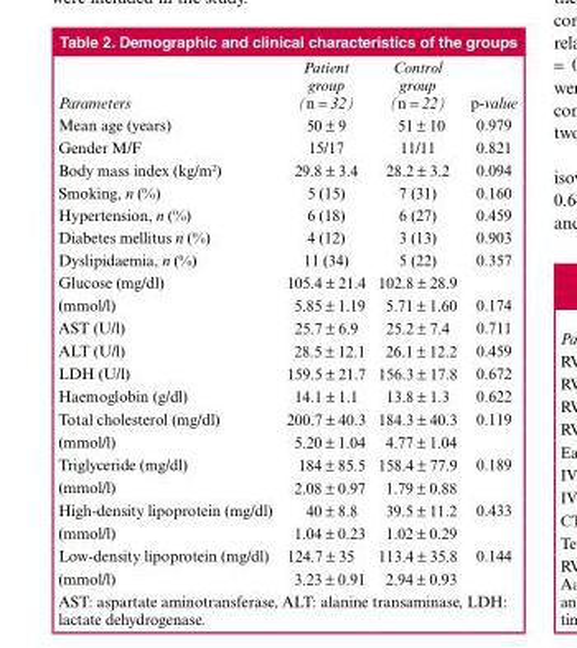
<table><thead><tr><td>Parameters</td><td>Patient group (n = 32)</td><td>Control group (n = 22)</td><td>p-value</td></tr></thead><tbody><tr><td>Mean age (years)</td><td>50 ± 9</td><td>51 ± 10</td><td>0.979</td></tr><tr><td>Gender M/F</td><td>15/17</td><td>11/11</td><td>0.821</td></tr><tr><td>Body mass index (kg/m²)</td><td>29.8 ± 3.4</td><td>28.2 ± 3.2</td><td>0.094</td></tr><tr><td>Smoking, n (%)</td><td>5 (15)</td><td>7 (31)</td><td>0.160</td></tr><tr><td>Hypertension, n (%)</td><td>6 (18)</td><td>6 (27)</td><td>0.459</td></tr><tr><td>Diabetes mellitus n (%)</td><td>4 (12)</td><td>3 (13)</td><td>0.903</td></tr><tr><td>Dyslipidaemia, n (%)</td><td>11 (34)</td><td>5 (22)</td><td>0.357</td></tr><tr><td>Glucose (mg/dl)</td><td>105.4 ± 21.4</td><td>102.8 ± 28.9</td><td></td></tr><tr><td>(mmol/l)</td><td>5.85 ± 1.19</td><td>5.71 ± 1.60</td><td>0.174</td></tr><tr><td>AST (U/l)</td><td>25.7 ± 6.9</td><td>25.2 ± 7.4</td><td>0.711</td></tr><tr><td>ALT (U/l)</td><td>28.5 ± 12.1</td><td>26.1 ± 12.2</td><td>0.459</td></tr><tr><td>LDH (U/l)</td><td>159.5 ± 21.7</td><td>156.3 ± 17.8</td><td>0.672</td></tr><tr><td>Haemoglobin (g/dl)</td><td>14.1 ± 1.1</td><td>13.8 ± 1.3</td><td>0.622</td></tr><tr><td>Total cholesterol (mg/dl)</td><td>200.7 ± 40.3</td><td>184.3 ± 40.3</td><td>0.119</td></tr><tr><td>(mmol/l)</td><td>5.20 ± 1.04</td><td>4.77 ± 1.04</td><td></td></tr><tr><td>Triglyceride (mg/dl)</td><td>184 ± 85.5</td><td>158.4 ± 77.9</td><td>0.189</td></tr><tr><td>(mmol/l)</td><td>2.08 ± 0.97</td><td>1.79 ± 0.88</td><td></td></tr><tr><td>High-density lipoprotein (mg/dl)</td><td>40 ± 8.8</td><td>39.5 ± 11.2</td><td>0.433</td></tr><tr><td>(mmol/l)</td><td>1.04 ± 0.23</td><td>1.02 ± 0.29</td><td></td></tr><tr><td>Low-density lipoprotein (mg/dl)</td><td>124.7 ± 35</td><td>113.4 ± 35.8</td><td>0.144</td></tr><tr><td>(mmol/l)</td><td>3.23 ± 0.91</td><td>2.94 ± 0.93</td><td></td></tr></tbody></table>